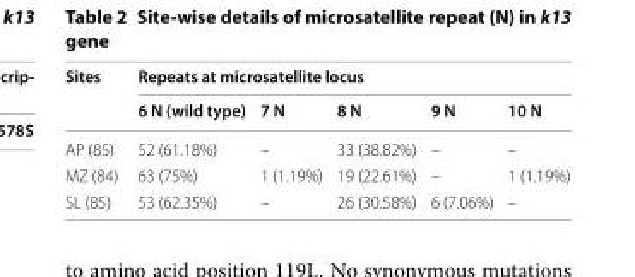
<table><thead><tr><td rowspan="2">Sites</td><td colspan="5">Repeats at microsatellite locus</td></tr><tr><td>6 N (wild type)</td><td>7 N</td><td>8 N</td><td>9 N</td><td>10 N</td></tr></thead><tbody><tr><td>AP (85)</td><td>52 (61.18%)</td><td>–</td><td>33 (38.82%)</td><td>–</td><td>–</td></tr><tr><td>MZ (84)</td><td>63 (75%)</td><td>1 (1.19%)</td><td>19 (22.61%)</td><td>–</td><td>1 (1.19%)</td></tr><tr><td>SL (85)</td><td>53 (62.35%)</td><td>–</td><td>26 (30.58%)</td><td>6 (7.06%)</td><td>–</td></tr></tbody></table>